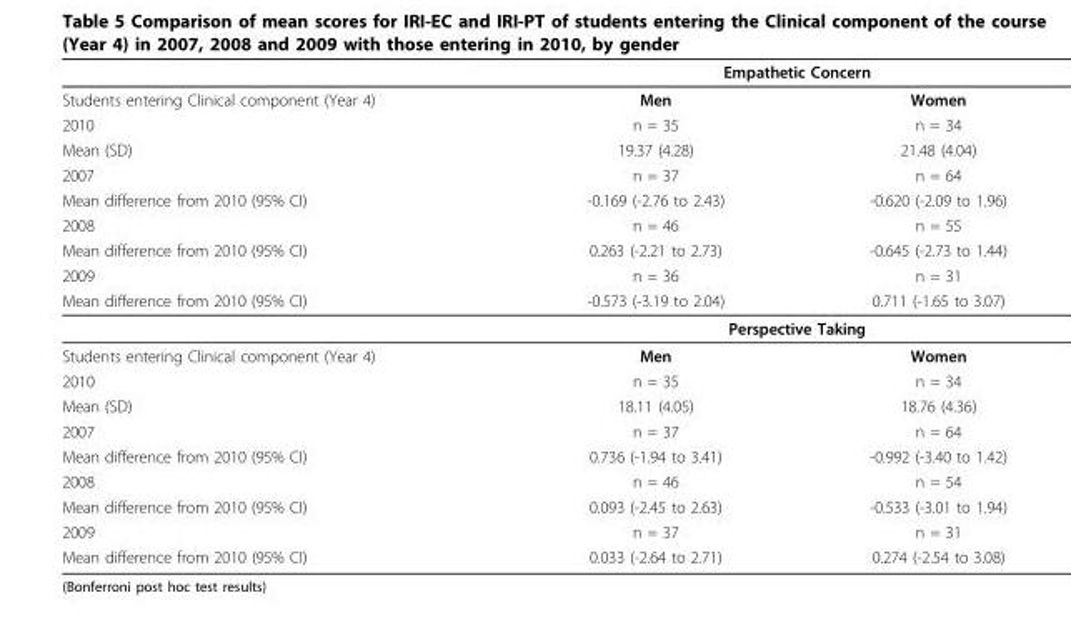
<table><thead><tr><td rowspan="2">Students entering Clinical component (Year 4)</td><td colspan="2">Empathetic Concern</td></tr><tr><td>Men</td><td>Women</td></tr></thead><tbody><tr><td>2010</td><td>n = 35</td><td>n = 34</td></tr><tr><td>Mean (SD)</td><td>19.37 (4.28)</td><td>21.48 (4.04)</td></tr><tr><td>2007</td><td>n = 37</td><td>n = 64</td></tr><tr><td>Mean difference from 2010 (95% CI)</td><td>-0.169 (-2.76 to 2.43)</td><td>-0.620 (-2.09 to 1.96)</td></tr><tr><td>2008</td><td>n = 46</td><td>n = 55</td></tr><tr><td>Mean difference from 2010 (95% CI)</td><td>0.263 (-2.21 to 2.73)</td><td>-0.645 (-2.73 to 1.44)</td></tr><tr><td>2009</td><td>n = 36</td><td>n = 31</td></tr><tr><td rowspan="2">Mean difference from 2010 (95% CI)</td><td>-0.573 (-3.19 to 2.04)</td><td>0.711 (-1.65 to 3.07)</td></tr><tr><td colspan="2">Perspective Taking</td></tr><tr><td>Students entering Clinical component (Year 4)</td><td>Men</td><td>Women</td></tr><tr><td>2010</td><td>n = 35</td><td>n = 34</td></tr><tr><td>Mean (SD)</td><td>18.11 (4.05)</td><td>18.76 (4.36)</td></tr><tr><td>2007</td><td>n = 37</td><td>n = 64</td></tr><tr><td>Mean difference from 2010 (95% CI)</td><td>0.736 (-1.94 to 3.41)</td><td>-0.992 (-3.40 to 1.42)</td></tr><tr><td>2008</td><td>n = 46</td><td>n = 54</td></tr><tr><td>Mean difference from 2010 (95% CI)</td><td>0.093 (-2.45 to 2.63)</td><td>-0.533 (-3.01 to 1.94)</td></tr><tr><td>2009</td><td>n = 37</td><td>n = 31</td></tr><tr><td>Mean difference from 2010 (95% CI)</td><td>0.033 (-2.64 to 2.71)</td><td>0.274 (-2.54 to 3.08)</td></tr></tbody></table>